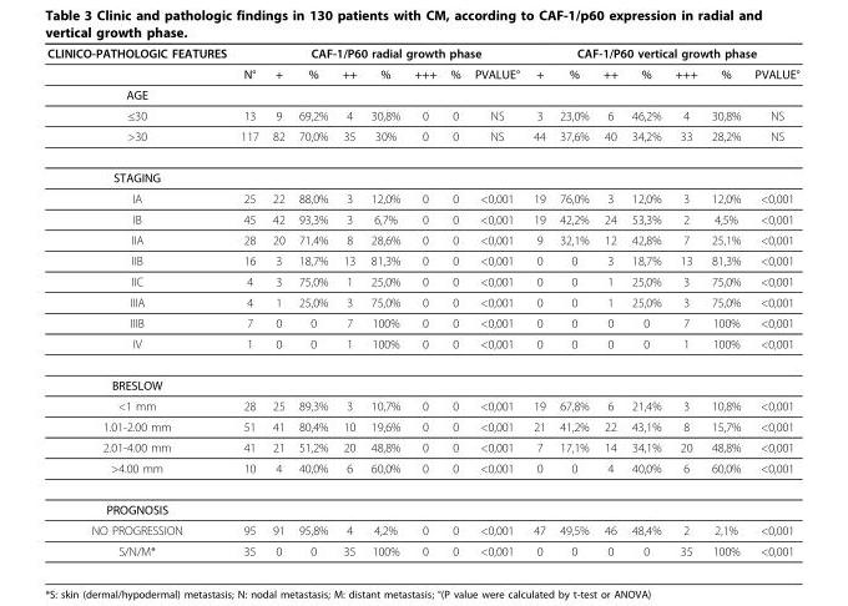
<table><thead><tr><td rowspan="2">CLINICO-PATHOLOGIC FEATURES</td><td rowspan="2">N°</td><td colspan="7">CAF-1/P60 radial growth phase</td><td colspan="7">CAF-1/P60 vertical growth phase</td></tr><tr><td>+</td><td>%</td><td>++</td><td>%</td><td>+++</td><td>%</td><td>PVALUE°</td><td>+</td><td>%</td><td>++</td><td>%</td><td>+++</td><td>%</td><td>PVALUE°</td></tr></thead><tbody><tr><td colspan="16">AGE</td></tr><tr><td>≤30</td><td>13</td><td>9</td><td>69,2%</td><td>4</td><td>30,8%</td><td>0</td><td>0</td><td>NS</td><td>3</td><td>23,0%</td><td>6</td><td>46,2%</td><td>4</td><td>30,8%</td><td>NS</td></tr><tr><td>&gt;30</td><td>117</td><td>82</td><td>70,0%</td><td>35</td><td>30%</td><td>0</td><td>0</td><td>NS</td><td>44</td><td>37,6%</td><td>40</td><td>34,2%</td><td>33</td><td>28,2%</td><td>NS</td></tr><tr><td colspan="16">STAGING</td></tr><tr><td>IA</td><td>25</td><td>22</td><td>88,0%</td><td>3</td><td>12,0%</td><td>0</td><td>0</td><td>&lt;0,001</td><td>19</td><td>76,0%</td><td>3</td><td>12,0%</td><td>3</td><td>12,0%</td><td>&lt;0,001</td></tr><tr><td>IB</td><td>45</td><td>42</td><td>93,3%</td><td>3</td><td>6,7%</td><td>0</td><td>0</td><td>&lt;0,001</td><td>19</td><td>42,2%</td><td>24</td><td>53,3%</td><td>2</td><td>4,5%</td><td>&lt;0,001</td></tr><tr><td>IIA</td><td>28</td><td>20</td><td>71,4%</td><td>8</td><td>28,6%</td><td>0</td><td>0</td><td>&lt;0,001</td><td>9</td><td>32,1%</td><td>12</td><td>42,8%</td><td>7</td><td>25,1%</td><td>&lt;0,001</td></tr><tr><td>IIB</td><td>16</td><td>3</td><td>18,7%</td><td>13</td><td>81,3%</td><td>0</td><td>0</td><td>&lt;0,001</td><td>0</td><td>0</td><td>3</td><td>18,7%</td><td>13</td><td>81,3%</td><td>&lt;0,001</td></tr><tr><td>IIC</td><td>4</td><td>3</td><td>75,0%</td><td>1</td><td>25,0%</td><td>0</td><td>0</td><td>&lt;0,001</td><td>0</td><td>0</td><td>1</td><td>25,0%</td><td>3</td><td>75,0%</td><td>&lt;0,001</td></tr><tr><td>IIIA</td><td>4</td><td>1</td><td>25,0%</td><td>3</td><td>75,0%</td><td>0</td><td>0</td><td>&lt;0,001</td><td>0</td><td>0</td><td>1</td><td>25,0%</td><td>3</td><td>75,0%</td><td>&lt;0,001</td></tr><tr><td>IIIB</td><td>7</td><td>0</td><td>0</td><td>7</td><td>100%</td><td>0</td><td>0</td><td>&lt;0,001</td><td>0</td><td>0</td><td>0</td><td>0</td><td>7</td><td>100%</td><td>&lt;0,001</td></tr><tr><td>IV</td><td>1</td><td>0</td><td>0</td><td>1</td><td>100%</td><td>0</td><td>0</td><td>&lt;0,001</td><td>0</td><td>0</td><td>0</td><td>0</td><td>1</td><td>100%</td><td>&lt;0,001</td></tr><tr><td colspan="16">BRESLOW</td></tr><tr><td>&lt;1 mm</td><td>28</td><td>25</td><td>89,3%</td><td>3</td><td>10,7%</td><td>0</td><td>0</td><td>&lt;0,001</td><td>19</td><td>67,8%</td><td>6</td><td>21,4%</td><td>3</td><td>10,8%</td><td>&lt;0,001</td></tr><tr><td>1.01-2.00 mm</td><td>51</td><td>41</td><td>80,4%</td><td>10</td><td>19,6%</td><td>0</td><td>0</td><td>&lt;0,001</td><td>21</td><td>41,2%</td><td>22</td><td>43,1%</td><td>8</td><td>15,7%</td><td>&lt;0,001</td></tr><tr><td>2.01-4.00 mm</td><td>41</td><td>21</td><td>51,2%</td><td>20</td><td>48,8%</td><td>0</td><td>0</td><td>&lt;0,001</td><td>7</td><td>17,1%</td><td>14</td><td>34,1%</td><td>20</td><td>48,8%</td><td>&lt;0,001</td></tr><tr><td>&gt;4.00 mm</td><td>10</td><td>4</td><td>40,0%</td><td>6</td><td>60,0%</td><td>0</td><td>0</td><td>&lt;0,001</td><td>0</td><td>0</td><td>4</td><td>40,0%</td><td>6</td><td>60,0%</td><td>&lt;0,001</td></tr><tr><td colspan="16">PROGNOSIS</td></tr><tr><td>NO PROGRESSION</td><td>95</td><td>91</td><td>95,8%</td><td>4</td><td>4,2%</td><td>0</td><td>0</td><td>&lt;0,001</td><td>47</td><td>49,5%</td><td>46</td><td>48,4%</td><td>2</td><td>2,1%</td><td>&lt;0,001</td></tr><tr><td>S/N/M*</td><td>35</td><td>0</td><td>0</td><td>35</td><td>100%</td><td>0</td><td>0</td><td>&lt;0,001</td><td>0</td><td>0</td><td>0</td><td>0</td><td>35</td><td>100%</td><td>&lt;0,001</td></tr></tbody></table>